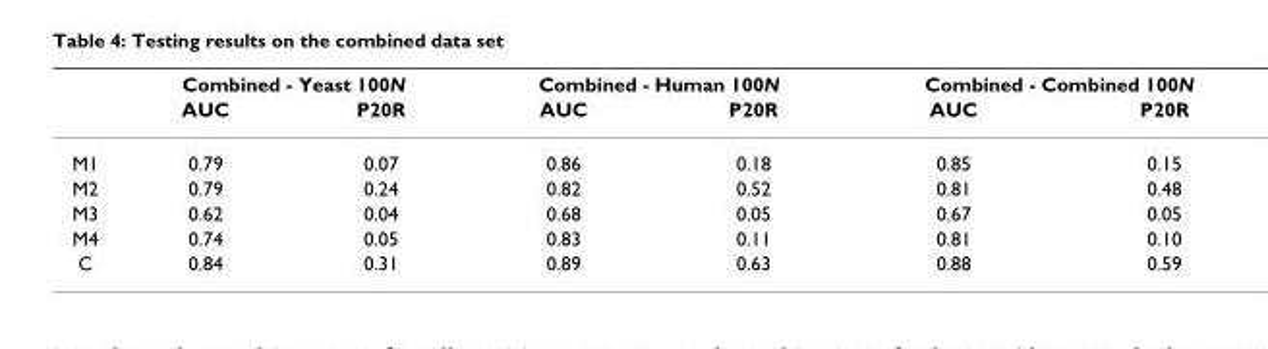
<table><thead><tr><td rowspan="2"></td><td colspan="2">Combined - Yeast 100N</td><td colspan="2">Combined - Human 100N</td><td colspan="2">Combined - Combined 100N</td></tr><tr><td>AUC</td><td>P20R</td><td>AUC</td><td>P20R</td><td>AUC</td><td>P20R</td></tr></thead><tbody><tr><td>M1</td><td>0.79</td><td>0.07</td><td>0.86</td><td>0.18</td><td>0.85</td><td>0.15</td></tr><tr><td>M2</td><td>0.79</td><td>0.24</td><td>0.82</td><td>0.52</td><td>0.81</td><td>0.48</td></tr><tr><td>M3</td><td>0.62</td><td>0.04</td><td>0.68</td><td>0.05</td><td>0.67</td><td>0.05</td></tr><tr><td>M4</td><td>0.74</td><td>0.05</td><td>0.83</td><td>0.11</td><td>0.81</td><td>0.10</td></tr><tr><td>C</td><td>0.84</td><td>0.31</td><td>0.89</td><td>0.63</td><td>0.88</td><td>0.59</td></tr></tbody></table>